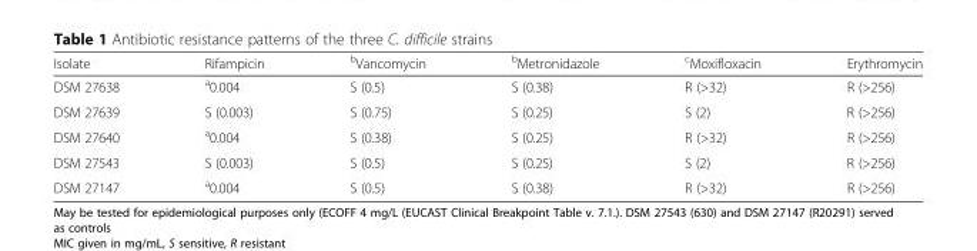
<table><thead><tr><td>Isolate</td><td>Rifampicin</td><td><sup>b</sup>Vancomycin</td><td><sup>b</sup>Metronidazole</td><td><sup>c</sup>Moxifloxacin</td><td>Erythromycin</td></tr></thead><tbody><tr><td>DSM 27638</td><td><sup>a</sup>0.004</td><td>S (0.5)</td><td>S (0.38)</td><td>R (&gt;32)</td><td>R (&gt;256)</td></tr><tr><td>DSM 27639</td><td>S (0.003)</td><td>S (0.75)</td><td>S (0.25)</td><td>S (2)</td><td>R (&gt;256)</td></tr><tr><td>DSM 27640</td><td><sup>a</sup>0.004</td><td>S (0.38)</td><td>S (0.25)</td><td>R (&gt;32)</td><td>R (&gt;256)</td></tr><tr><td>DSM 27543</td><td>S (0.003)</td><td>S (0.5)</td><td>S (0.25)</td><td>S (2)</td><td>R (&gt;256)</td></tr><tr><td>DSM 27147</td><td><sup>a</sup>0.004</td><td>S (0.5)</td><td>S (0.38)</td><td>R (&gt;32)</td><td>R (&gt;256)</td></tr></tbody></table>